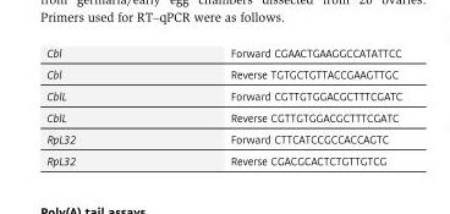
<table><tbody><tr><td>Cbl</td><td>Forward CGAACTGAAGGCCATATTCC</td></tr><tr><td>Cbl</td><td>Reverse TGTGCTGTTACCGAAGTTGC</td></tr><tr><td>CblL</td><td>Forward CGTTGTGGACGCTTTCGATC</td></tr><tr><td>CblL</td><td>Reverse CGTTGTGGACGCTTTCGATC</td></tr><tr><td>RpL32</td><td>Forward CTTCATCCGCCACCAGTC</td></tr><tr><td>RpL32</td><td>Reverse CGACGCACTCTGTTGTCG</td></tr></tbody></table>